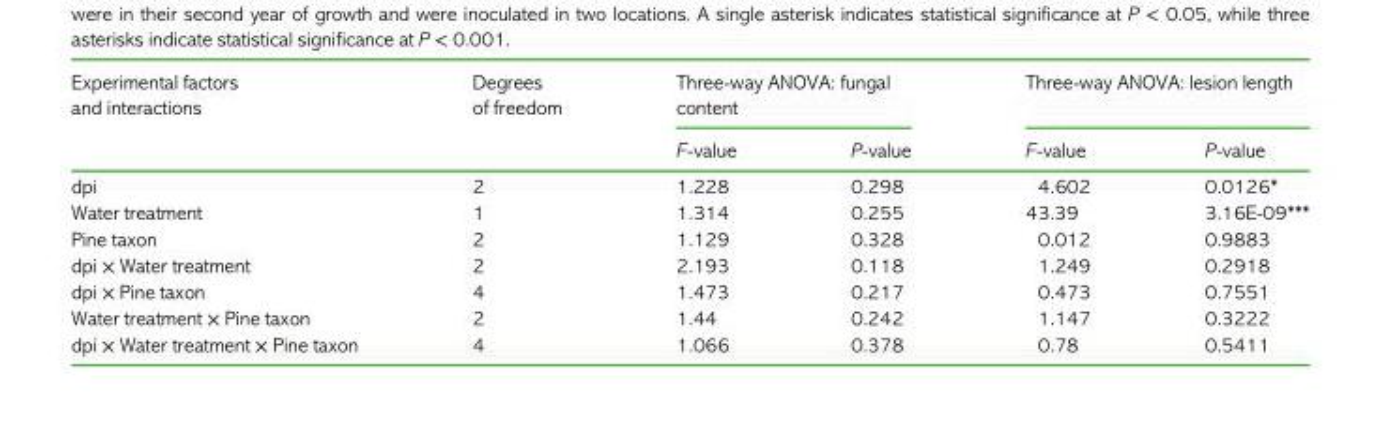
<table><thead><tr><td rowspan="2">Experimental factors and interactions</td><td rowspan="2">Degrees of freedom</td><td colspan="2">Three-way ANOVA: fungal content</td><td colspan="2">Three-way ANOVA: lesion length</td></tr><tr><td>F-value</td><td>P-value</td><td>F-value</td><td>P-value</td></tr></thead><tbody><tr><td>dpi</td><td>2</td><td>1.228</td><td>0.298</td><td>4.602</td><td>0.0126*</td></tr><tr><td>Water treatment</td><td>1</td><td>1.314</td><td>0.255</td><td>43.39</td><td>3.16E-09***</td></tr><tr><td>Pine taxon</td><td>2</td><td>1.129</td><td>0.328</td><td>0.012</td><td>0.9883</td></tr><tr><td>dpi × Water treatment</td><td>2</td><td>2.193</td><td>0.118</td><td>1.249</td><td>0.2918</td></tr><tr><td>dpi × Pine taxon</td><td>4</td><td>1.473</td><td>0.217</td><td>0.473</td><td>0.7551</td></tr><tr><td>Water treatment × Pine taxon</td><td>2</td><td>1.44</td><td>0.242</td><td>1.147</td><td>0.3222</td></tr><tr><td>dpi × Water treatment × Pine taxon</td><td>4</td><td>1.066</td><td>0.378</td><td>0.78</td><td>0.5411</td></tr></tbody></table>